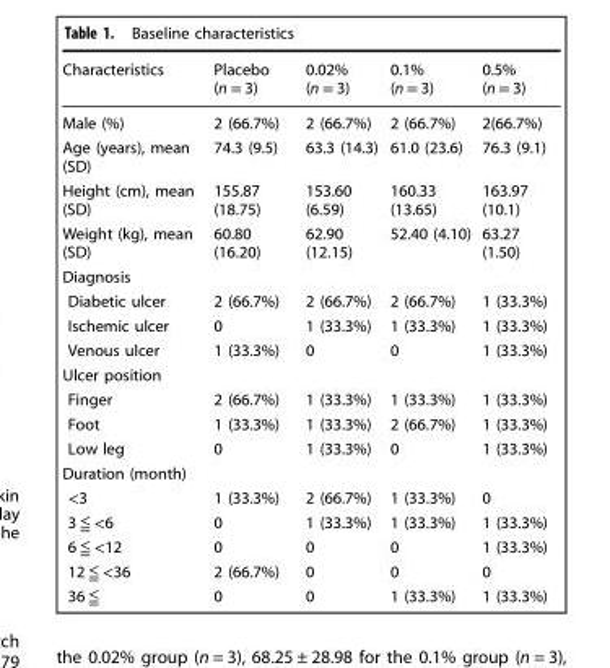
<table><thead><tr><td>Characteristics</td><td>Placebo (n = 3)</td><td>0.02% (n = 3)</td><td>0.1% (n = 3)</td><td>0.5% (n = 3)</td></tr></thead><tbody><tr><td>Male (%)</td><td>2 (66.7%)</td><td>2 (66.7%)</td><td>2 (66.7%)</td><td>2(66.7%)</td></tr><tr><td>Age (years), mean (SD)</td><td>74.3 (9.5)</td><td>63.3 (14.3)</td><td>61.0 (23.6)</td><td>76.3 (9.1)</td></tr><tr><td>Height (cm), mean (SD)</td><td>155.87 (18.75)</td><td>153.60 (6.59)</td><td>160.33 (13.65)</td><td>163.97 (10.1)</td></tr><tr><td>Weight (kg), mean (SD)</td><td>60.80 (16.20)</td><td>62.90 (12.15)</td><td>52.40 (4.10)</td><td>63.27 (1.50)</td></tr><tr><td colspan="5">Diagnosis</td></tr><tr><td>Diabetic ulcer</td><td>2 (66.7%)</td><td>2 (66.7%)</td><td>2 (66.7%)</td><td>1 (33.3%)</td></tr><tr><td>Ischemic ulcer</td><td>0</td><td>1 (33.3%)</td><td>1 (33.3%)</td><td>1 (33.3%)</td></tr><tr><td>Venous ulcer</td><td>1 (33.3%)</td><td>0</td><td>0</td><td>1 (33.3%)</td></tr><tr><td colspan="5">Ulcer position</td></tr><tr><td>Finger</td><td>2 (66.7%)</td><td>1 (33.3%)</td><td>1 (33.3%)</td><td>1 (33.3%)</td></tr><tr><td>Foot</td><td>1 (33.3%)</td><td>1 (33.3%)</td><td>2 (66.7%)</td><td>1 (33.3%)</td></tr><tr><td>Low leg</td><td>0</td><td>1 (33.3%)</td><td>0</td><td>1 (33.3%)</td></tr><tr><td colspan="5">Duration (month)</td></tr><tr><td>&lt;3</td><td>1 (33.3%)</td><td>2 (66.7%)</td><td>1 (33.3%)</td><td>0</td></tr><tr><td>3 ≦ &lt;6</td><td>0</td><td>1 (33.3%)</td><td>1 (33.3%)</td><td>1 (33.3%)</td></tr><tr><td>6 ≦ &lt;12</td><td>0</td><td>0</td><td>0</td><td>1 (33.3%)</td></tr><tr><td>12 ≦ &lt;36</td><td>2 (66.7%)</td><td>0</td><td>0</td><td>0</td></tr><tr><td>36 ≦</td><td>0</td><td>0</td><td>1 (33.3%)</td><td>1 (33.3%)</td></tr></tbody></table>